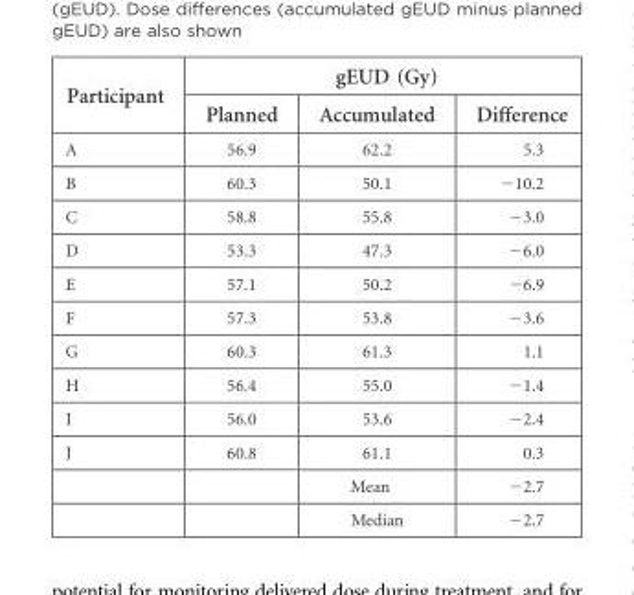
<table><thead><tr><td rowspan="2">Participant</td><td colspan="3">gEUD (Gy)</td></tr><tr><td>Planned</td><td>Accumulated</td><td>Difference</td></tr></thead><tbody><tr><td>A</td><td>56.9</td><td>62.2</td><td>5.3</td></tr><tr><td>B</td><td>60.3</td><td>50.1</td><td>−10.2</td></tr><tr><td>C</td><td>58.8</td><td>55.8</td><td>−3.0</td></tr><tr><td>D</td><td>53.3</td><td>47.3</td><td>−6.0</td></tr><tr><td>E</td><td>57.1</td><td>50.2</td><td>−6.9</td></tr><tr><td>F</td><td>57.3</td><td>53.8</td><td>−3.6</td></tr><tr><td>G</td><td>60.3</td><td>61.3</td><td>1.1</td></tr><tr><td>H</td><td>56.4</td><td>55.0</td><td>−1.4</td></tr><tr><td>I</td><td>56.0</td><td>53.6</td><td>−2.4</td></tr><tr><td rowspan="3">J</td><td>60.8</td><td>61.1</td><td>0.3</td></tr><tr><td></td><td>Mean</td><td>−2.7</td></tr><tr><td></td><td>Median</td><td>−2.7</td></tr></tbody></table>